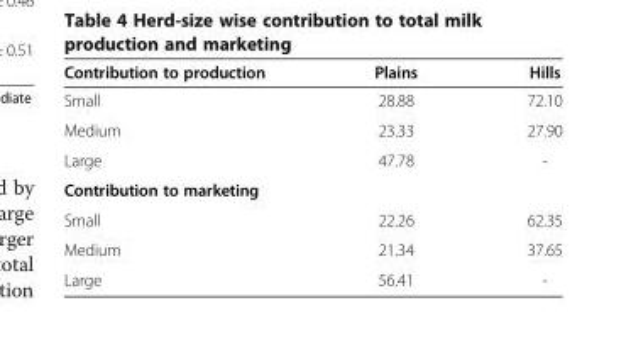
<table><thead><tr><td>Contribution to production</td><td>Plains</td><td>Hills</td></tr></thead><tbody><tr><td>Small</td><td>28.88</td><td>72.10</td></tr><tr><td>Medium</td><td>23.33</td><td>27.90</td></tr><tr><td>Large</td><td>47.78</td><td>-</td></tr><tr><td colspan="3">Contribution to marketing</td></tr><tr><td>Small</td><td>22.26</td><td>62.35</td></tr><tr><td>Medium</td><td>21.34</td><td>37.65</td></tr><tr><td>Large</td><td>56.41</td><td>-</td></tr></tbody></table>